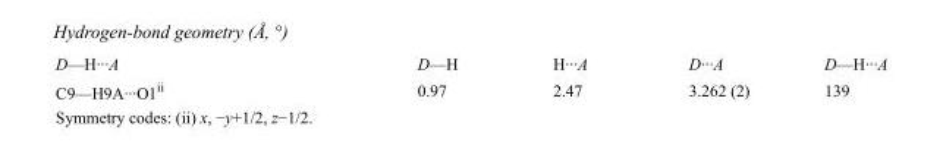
<table><tbody><tr><td>D—H···A</td><td>D—H</td><td>H···A</td><td>D···A</td><td>D—H···A</td></tr><tr><td>C9—H9A···O1<sup>ii</sup></td><td>0.97</td><td>2.47</td><td>3.262 (2)</td><td>139</td></tr></tbody></table>